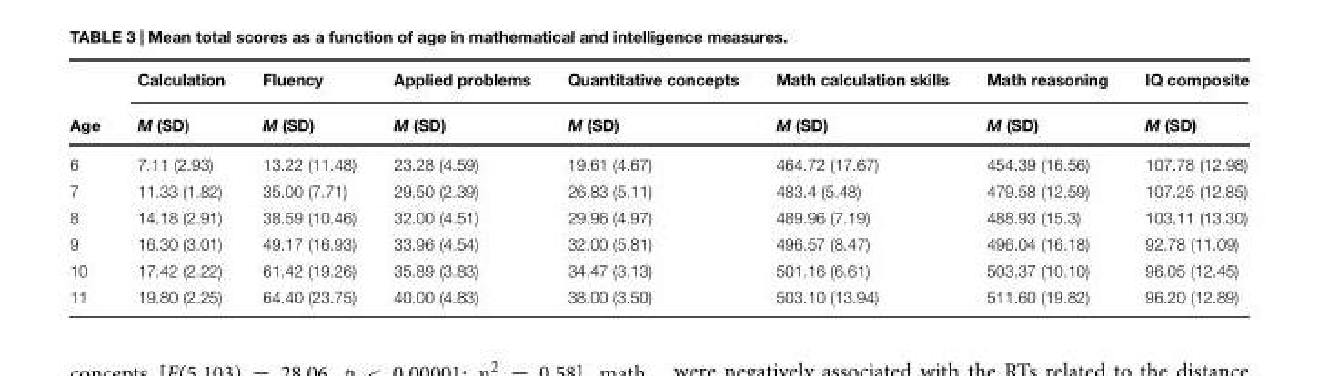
<table><thead><tr><td rowspan="2">Age</td><td rowspan="2">Calculation M (SD)</td><td rowspan="2">Fluency M (SD)</td><td rowspan="2">Applied problems M (SD)</td><td rowspan="2">Quantitative concepts M (SD)</td><td rowspan="2">Math calculation skills M (SD)</td><td rowspan="2">Math reasoning M (SD)</td><td rowspan="2">IQ composite M (SD)</td></tr><tr></tr></thead><tbody><tr><td>6</td><td>7.11 (2.93)</td><td>13.22 (11.48)</td><td>23.28 (4.59)</td><td>19.61 (4.67)</td><td>464.72 (17.67)</td><td>454.39 (16.56)</td><td>107.78 (12.98)</td></tr><tr><td>7</td><td>11.33 (1.82)</td><td>35.00 (7.71)</td><td>29.50 (2.39)</td><td>26.83 (5.11)</td><td>483.4 (5.48)</td><td>479.58 (12.59)</td><td>107.25 (12.85)</td></tr><tr><td>8</td><td>14.18 (2.91)</td><td>38.59 (10.46)</td><td>32.00 (4.51)</td><td>29.96 (4.97)</td><td>489.96 (7.19)</td><td>488.93 (15.3)</td><td>103.11 (13.30)</td></tr><tr><td>9</td><td>16.30 (3.01)</td><td>49.17 (16.93)</td><td>33.96 (4.54)</td><td>32.00 (5.81)</td><td>496.57 (8.47)</td><td>496.04 (16.18)</td><td>92.78 (11.09)</td></tr><tr><td>10</td><td>17.42 (2.22)</td><td>61.42 (19.26)</td><td>35.89 (3.83)</td><td>34.47 (3.13)</td><td>501.16 (6.61)</td><td>503.37 (10.10)</td><td>96.05 (12.45)</td></tr><tr><td>11</td><td>19.80 (2.25)</td><td>64.40 (23.75)</td><td>40.00 (4.83)</td><td>38.00 (3.50)</td><td>503.10 (13.94)</td><td>511.60 (19.82)</td><td>96.20 (12.89)</td></tr></tbody></table>